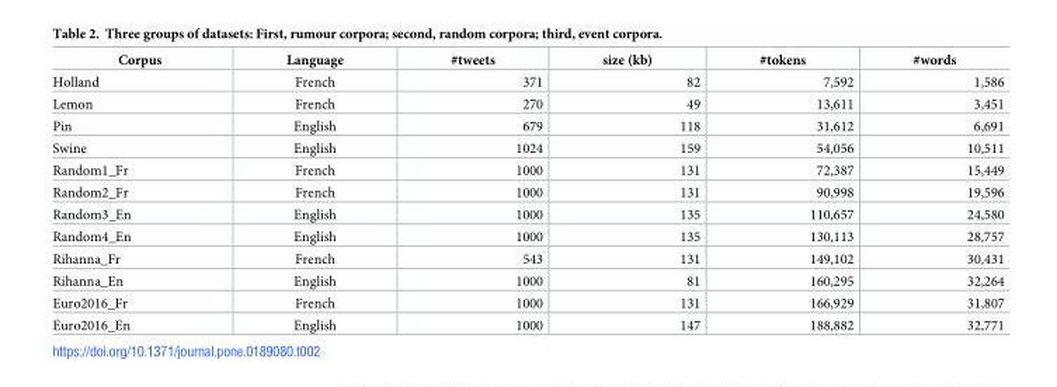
<table><thead><tr><td>Corpus</td><td>Language</td><td>#tweets</td><td>size (kb)</td><td>#tokens</td><td>#words</td></tr></thead><tbody><tr><td>Holland</td><td>French</td><td>371</td><td>82</td><td>7,592</td><td>1,586</td></tr><tr><td>Lemon</td><td>French</td><td>270</td><td>49</td><td>13,611</td><td>3,451</td></tr><tr><td>Pin</td><td>English</td><td>679</td><td>118</td><td>31,612</td><td>6,691</td></tr><tr><td>Swine</td><td>English</td><td>1024</td><td>159</td><td>54,056</td><td>10,511</td></tr><tr><td>Random1_Fr</td><td>French</td><td>1000</td><td>131</td><td>72,387</td><td>15,449</td></tr><tr><td>Random2_Fr</td><td>French</td><td>1000</td><td>131</td><td>90,998</td><td>19,596</td></tr><tr><td>Random3_En</td><td>English</td><td>1000</td><td>135</td><td>110,657</td><td>24,580</td></tr><tr><td>Random4_En</td><td>English</td><td>1000</td><td>135</td><td>130,113</td><td>28,757</td></tr><tr><td>Rihanna_Fr</td><td>French</td><td>543</td><td>131</td><td>149,102</td><td>30,431</td></tr><tr><td>Rihanna_En</td><td>English</td><td>1000</td><td>81</td><td>160,295</td><td>32,264</td></tr><tr><td>Euro2016_Fr</td><td>French</td><td>1000</td><td>131</td><td>166,929</td><td>31,807</td></tr><tr><td>Euro2016_En</td><td>English</td><td>1000</td><td>147</td><td>188,882</td><td>32,771</td></tr></tbody></table>